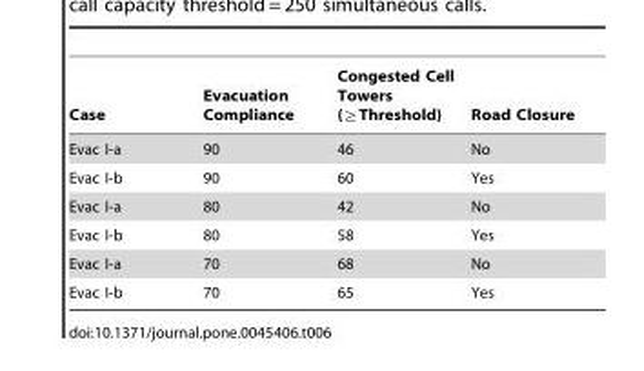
<table><thead><tr><td>Case</td><td>Evacuation Compliance</td><td>Congested Cell Towers (§Threshold)</td><td>Road Closure</td></tr></thead><tbody><tr><td>Evac I-a</td><td>90</td><td>46</td><td>No</td></tr><tr><td>Evac I-b</td><td>90</td><td>60</td><td>Yes</td></tr><tr><td>Evac I-a</td><td>80</td><td>42</td><td>No</td></tr><tr><td>Evac I-b</td><td>80</td><td>58</td><td>Yes</td></tr><tr><td>Evac I-a</td><td>70</td><td>68</td><td>No</td></tr><tr><td>Evac I-b</td><td>70</td><td>65</td><td>Yes</td></tr></tbody></table>